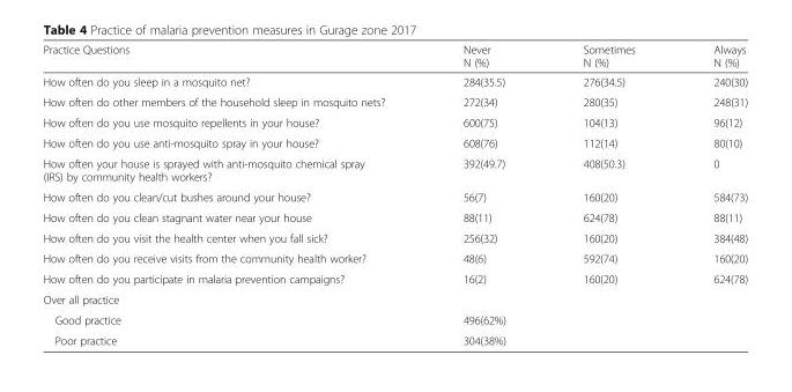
<table><thead><tr><td>Practice Questions</td><td>Never N (%)</td><td>Sometimes N (%)</td><td>Always N (%)</td></tr></thead><tbody><tr><td>How often do you sleep in a mosquito net?</td><td>284(35.5)</td><td>276(34.5)</td><td>240(30)</td></tr><tr><td>How often do other members of the household sleep in mosquito nets?</td><td>272(34)</td><td>280(35)</td><td>248(31)</td></tr><tr><td>How often do you use mosquito repellents in your house?</td><td>600(75)</td><td>104(13)</td><td>96(12)</td></tr><tr><td>How often do you use anti-mosquito spray in your house?</td><td>608(76)</td><td>112(14)</td><td>80(10)</td></tr><tr><td>How often your house is sprayed with anti-mosquito chemical spray (IRS) by community health workers?</td><td>392(49.7)</td><td>408(50.3)</td><td>0</td></tr><tr><td>How often do you clean/cut bushes around your house?</td><td>56(7)</td><td>160(20)</td><td>584(73)</td></tr><tr><td>How often do you clean stagnant water near your house</td><td>88(11)</td><td>624(78)</td><td>88(11)</td></tr><tr><td>How often do you visit the health center when you fall sick?</td><td>256(32)</td><td>160(20)</td><td>384(48)</td></tr><tr><td>How often do you receive visits from the community health worker?</td><td>48(6)</td><td>592(74)</td><td>160(20)</td></tr><tr><td>How often do you participate in malaria prevention campaigns?</td><td>16(2)</td><td>160(20)</td><td>624(78)</td></tr><tr><td colspan="4">Over all practice</td></tr><tr><td>Good practice</td><td colspan="3">496(62%)</td></tr><tr><td>Poor practice</td><td colspan="3">304(38%)</td></tr></tbody></table>